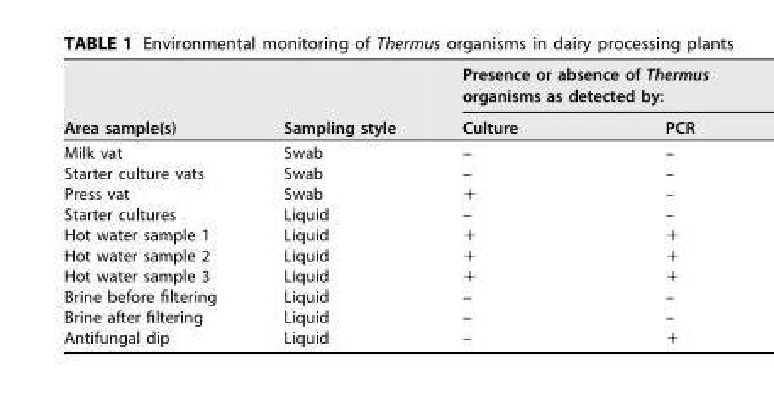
<table><thead><tr><td rowspan="2">Area sample(s)</td><td rowspan="2">Sampling style</td><td colspan="2">Presence or absence of Thermus organisms as detected by:</td></tr><tr><td>Culture</td><td>PCR</td></tr></thead><tbody><tr><td>Milk vat</td><td>Swab</td><td>–</td><td>–</td></tr><tr><td>Starter culture vats</td><td>Swab</td><td>–</td><td>–</td></tr><tr><td>Press vat</td><td>Swab</td><td>+</td><td>–</td></tr><tr><td>Starter cultures</td><td>Liquid</td><td>–</td><td>–</td></tr><tr><td>Hot water sample 1</td><td>Liquid</td><td>+</td><td>+</td></tr><tr><td>Hot water sample 2</td><td>Liquid</td><td>+</td><td>+</td></tr><tr><td>Hot water sample 3</td><td>Liquid</td><td>+</td><td>+</td></tr><tr><td>Brine before filtering</td><td>Liquid</td><td>–</td><td>–</td></tr><tr><td>Brine after filtering</td><td>Liquid</td><td>–</td><td>–</td></tr><tr><td>Antifungal dip</td><td>Liquid</td><td>–</td><td>+</td></tr></tbody></table>